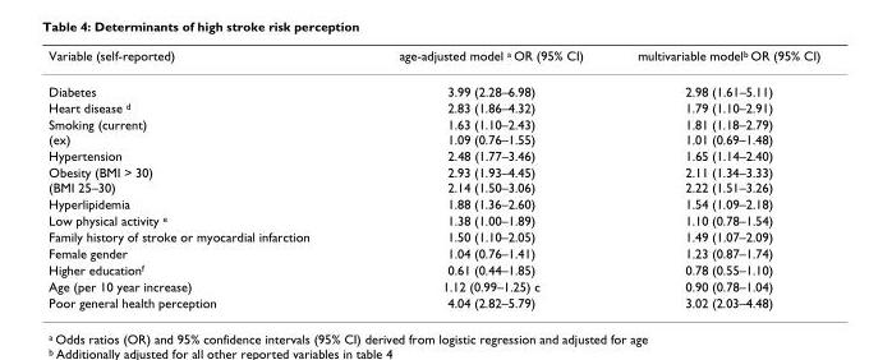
<table><thead><tr><td>Variable (self-reported)</td><td>age-adjusted model <sup>a</sup> OR (95% CI)</td><td>multivariable model<sup>b</sup> OR (95% CI)</td></tr></thead><tbody><tr><td>Diabetes</td><td>3.99 (2.28–6.98)</td><td>2.98 (1.61–5.11)</td></tr><tr><td>Heart disease <sup>d</sup></td><td>2.83 (1.86–4.32)</td><td>1.79 (1.10–2.91)</td></tr><tr><td>Smoking (current) (ex)</td><td>1.63 (1.10–2.43) 1.09 (0.76–1.55)</td><td>1.81 (1.18–2.79) 1.01 (0.69–1.48)</td></tr><tr><td>Hypertension</td><td>2.48 (1.77–3.46)</td><td>1.65 (1.14–2.40)</td></tr><tr><td>Obesity (BMI &gt; 30) (BMI 25–30)</td><td>2.93 (1.93–4.45) 2.14 (1.50–3.06)</td><td>2.11 (1.34–3.33) 2.22 (1.51–3.26)</td></tr><tr><td>Hyperlipidemia</td><td>1.88 (1.36–2.60)</td><td>1.54 (1.09–2.18)</td></tr><tr><td>Low physical activity <sup>e</sup></td><td>1.38 (1.00–1.89)</td><td>1.10 (0.78–1.54)</td></tr><tr><td>Family history of stroke or myocardial infarction</td><td>1.50 (1.10–2.05)</td><td>1.49 (1.07–2.09)</td></tr><tr><td>Female gender</td><td>1.04 (0.76–1.41)</td><td>1.23 (0.87–1.74)</td></tr><tr><td>Higher education<sup>f</sup></td><td>0.61 (0.44–1.85)</td><td>0.78 (0.55–1.10)</td></tr><tr><td>Age (per 10 year increase)</td><td>1.12 (0.99–1.25) c</td><td>0.90 (0.78–1.04)</td></tr><tr><td>Poor general health perception</td><td>4.04 (2.82–5.79)</td><td>3.02 (2.03–4.48)</td></tr></tbody></table>